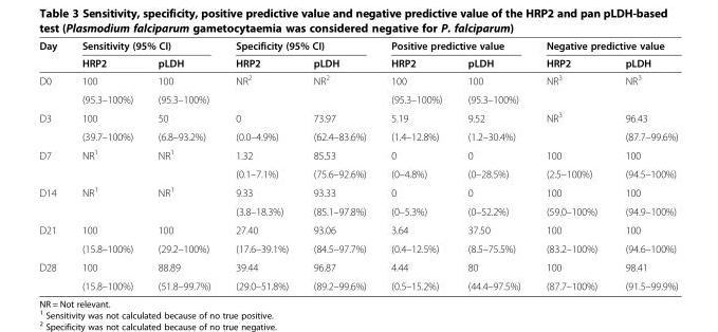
<table><thead><tr><td rowspan="2">Day</td><td colspan="2">Sensitivity (95% CI)</td><td colspan="2">Specificity (95% CI)</td><td colspan="2">Positive predictive value</td><td colspan="2">Negative predictive value</td></tr><tr><td>HRP2</td><td>pLDH</td><td>HRP2</td><td>pLDH</td><td>HRP2</td><td>pLDH</td><td>HRP2</td><td>pLDH</td></tr></thead><tbody><tr><td rowspan="2">D0</td><td>100</td><td>100</td><td>NR<sup>2</sup></td><td>NR<sup>2</sup></td><td>100</td><td>100</td><td>NR<sup>3</sup></td><td>NR<sup>3</sup></td></tr><tr><td>(95.3–100%)</td><td>(95.3–100%)</td><td></td><td></td><td>(95.3–100%)</td><td>(95.3–100%)</td><td></td><td></td></tr><tr><td rowspan="2">D3</td><td>100</td><td>50</td><td>0</td><td>73.97</td><td>5.19</td><td>9.52</td><td>NR<sup>3</sup></td><td>96.43</td></tr><tr><td>(39.7–100%)</td><td>(6.8–93.2%)</td><td>(0.0–4.9%)</td><td>(62.4–83.6%)</td><td>(1.4–12.8%)</td><td>(1.2–30.4%)</td><td></td><td>(87.7–99.6%)</td></tr><tr><td rowspan="2">D7</td><td>NR<sup>1</sup></td><td>NR<sup>1</sup></td><td>1.32</td><td>85.53</td><td>0</td><td>0</td><td>100</td><td>100</td></tr><tr><td></td><td></td><td>(0.1–7.1%)</td><td>(75.6–92.6%)</td><td>(0–4.8%)</td><td>(0–28.5%)</td><td>(2.5–100%)</td><td>(94.5–100%)</td></tr><tr><td rowspan="2">D14</td><td>NR<sup>1</sup></td><td>NR<sup>1</sup></td><td>9.33</td><td>93.33</td><td>0</td><td>0</td><td>100</td><td>100</td></tr><tr><td></td><td></td><td>(3.8–18.3%)</td><td>(85.1–97.8%)</td><td>(0–5.3%)</td><td>(0–52.2%)</td><td>(59.0–100%)</td><td>(94.9–100%)</td></tr><tr><td rowspan="2">D21</td><td>100</td><td>100</td><td>27.40</td><td>93.06</td><td>3.64</td><td>37.50</td><td>100</td><td>100</td></tr><tr><td>(15.8–100%)</td><td>(29.2–100%)</td><td>(17.6–39.1%)</td><td>(84.5–97.7%)</td><td>(0.4–12.5%)</td><td>(8.5–75.5%)</td><td>(83.2–100%)</td><td>(94.6–100%)</td></tr><tr><td rowspan="2">D28</td><td>100</td><td>88.89</td><td>39.44</td><td>96.87</td><td>4.44</td><td>80</td><td>100</td><td>98.41</td></tr><tr><td>(15.8–100%)</td><td>(51.8–99.7%)</td><td>(29.0–51.8%)</td><td>(89.2–99.6%)</td><td>(0.5–15.2%)</td><td>(44.4–97.5%)</td><td>(87.7–100%)</td><td>(91.5–99.9%)</td></tr></tbody></table>